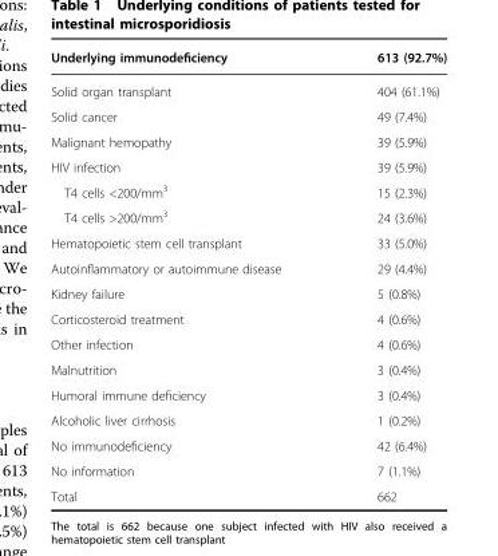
<table><thead><tr><td>Underlying immunodeficiency</td><td>613 (92.7%)</td></tr></thead><tbody><tr><td>Solid organ transplant</td><td>404 (61.1%)</td></tr><tr><td>Solid cancer</td><td>49 (7.4%)</td></tr><tr><td>Malignant hemopathy</td><td>39 (5.9%)</td></tr><tr><td>HIV infection</td><td>39 (5.9%)</td></tr><tr><td>T4 cells &lt;200/mm<sup>3</sup></td><td>15 (2.3%)</td></tr><tr><td>T4 cells &gt;200/mm<sup>3</sup></td><td>24 (3.6%)</td></tr><tr><td>Hematopoietic stem cell transplant</td><td>33 (5.0%)</td></tr><tr><td>Autoinflammatory or autoimmune disease</td><td>29 (4.4%)</td></tr><tr><td>Kidney failure</td><td>5 (0.8%)</td></tr><tr><td>Corticosteroid treatment</td><td>4 (0.6%)</td></tr><tr><td>Other infection</td><td>4 (0.6%)</td></tr><tr><td>Malnutrition</td><td>3 (0.4%)</td></tr><tr><td>Humoral immune deficiency</td><td>3 (0.4%)</td></tr><tr><td>Alcoholic liver cirrhosis</td><td>1 (0.2%)</td></tr><tr><td>No immunodeficiency</td><td>42 (6.4%)</td></tr><tr><td>No information</td><td>7 (1.1%)</td></tr><tr><td>Total</td><td>662</td></tr></tbody></table>